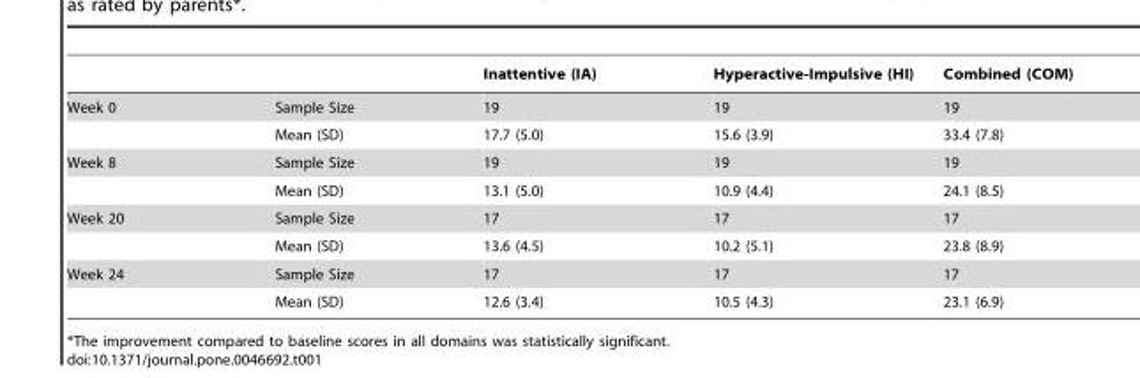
<table><thead><tr><td></td><td></td><td>Inattentive (IA)</td><td>Hyperactive-Impulsive (HI)</td><td>Combined (COM)</td></tr></thead><tbody><tr><td rowspan="2">Week 0</td><td>Sample Size</td><td>19</td><td>19</td><td>19</td></tr><tr><td>Mean (SD)</td><td>17.7 (5.0)</td><td>15.6 (3.9)</td><td>33.4 (7.8)</td></tr><tr><td rowspan="2">Week 8</td><td>Sample Size</td><td>19</td><td>19</td><td>19</td></tr><tr><td>Mean (SD)</td><td>13.1 (5.0)</td><td>10.9 (4.4)</td><td>24.1 (8.5)</td></tr><tr><td rowspan="2">Week 20</td><td>Sample Size</td><td>17</td><td>17</td><td>17</td></tr><tr><td>Mean (SD)</td><td>13.6 (4.5)</td><td>10.2 (5.1)</td><td>23.8 (8.9)</td></tr><tr><td rowspan="2">Week 24</td><td>Sample Size</td><td>17</td><td>17</td><td>17</td></tr><tr><td>Mean (SD)</td><td>12.6 (3.4)</td><td>10.5 (4.3)</td><td>23.1 (6.9)</td></tr></tbody></table>